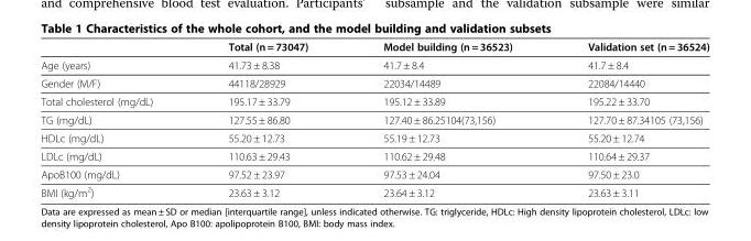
<table><thead><tr><td></td><td>Total (n = 73047)</td><td>Model building (n = 36523)</td><td>Validation set (n = 36524)</td></tr></thead><tbody><tr><td>Age (years)</td><td>41.73 ± 8.38</td><td>41.7 ± 8.4</td><td>41.7 ± 8.4</td></tr><tr><td>Gender (M/F)</td><td>44118/28929</td><td>22034/14489</td><td>22084/14440</td></tr><tr><td>Total cholesterol (mg/dL)</td><td>195.17 ± 33.79</td><td>195.12 ± 33.89</td><td>195.22 ± 33.70</td></tr><tr><td>TG (mg/dL)</td><td>127.55 ± 86.80</td><td>127.40 ± 86.25104(73,156)</td><td>127.70 ± 87.34105 (73,156)</td></tr><tr><td>HDLc (mg/dL)</td><td>55.20 ± 12.73</td><td>55.19 ± 12.73</td><td>55.20 ± 12.74</td></tr><tr><td>LDLc (mg/dL)</td><td>110.63 ± 29.43</td><td>110.62 ± 29.48</td><td>110.64 ± 29.37</td></tr><tr><td>ApoB100 (mg/dL)</td><td>97.52 ± 23.97</td><td>97.53 ± 24.04</td><td>97.50 ± 23.0</td></tr><tr><td>BMI (kg/m<sup>2</sup>)</td><td>23.63 ± 3.12</td><td>23.64 ± 3.12</td><td>23.63 ± 3.11</td></tr></tbody></table>